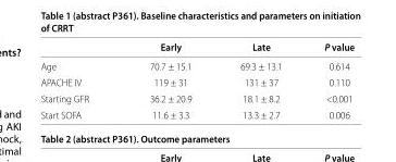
<table><thead><tr><td></td><td>Early</td><td>Late</td><td>P value</td></tr></thead><tbody><tr><td>Age</td><td>70.7 ± 15.1</td><td>69.3 ± 13.1</td><td>0.614</td></tr><tr><td>APACHE IV</td><td>119 ± 31</td><td>131 ± 37</td><td>0.110</td></tr><tr><td>Starting GFR</td><td>36.2 ± 20.9</td><td>18.1 ± 8.2</td><td>&lt;0.001</td></tr><tr><td>Start SOFA</td><td>11.6 ± 3.3</td><td>13.3 ± 2.7</td><td>0.006</td></tr></tbody></table>